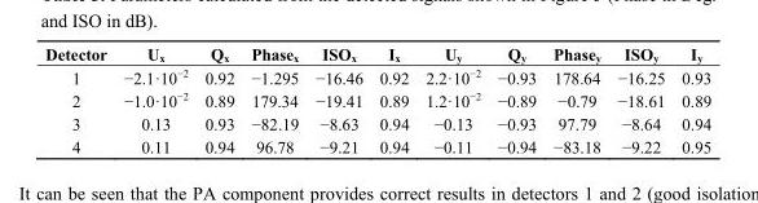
<table><thead><tr><td>Detector</td><td>U<sub>x</sub></td><td>Q<sub>x</sub></td><td>Phase<sub>x</sub></td><td>ISO<sub>x</sub></td><td>I<sub>x</sub></td><td>U<sub>y</sub></td><td>Q<sub>y</sub></td><td>Phase<sub>y</sub></td><td>ISO<sub>y</sub></td><td>I<sub>y</sub></td></tr></thead><tbody><tr><td>1</td><td>−2.1·10<sup>−2</sup></td><td>0.92</td><td>−1.295</td><td>−16.46</td><td>0.92</td><td>2.2·10<sup>−2</sup></td><td>−0.93</td><td>178.64</td><td>−16.25</td><td>0.93</td></tr><tr><td>2</td><td>−1.0·10<sup>−2</sup></td><td>0.89</td><td>179.34</td><td>−19.41</td><td>0.89</td><td>1.2·10<sup>−2</sup></td><td>−0.89</td><td>−0.79</td><td>−18.61</td><td>0.89</td></tr><tr><td>3</td><td>0.13</td><td>0.93</td><td>−82.19</td><td>−8.63</td><td>0.94</td><td>−0.13</td><td>−0.93</td><td>97.79</td><td>−8.64</td><td>0.94</td></tr><tr><td>4</td><td>0.11</td><td>0.94</td><td>96.78</td><td>−9.21</td><td>0.94</td><td>−0.11</td><td>−0.94</td><td>−83.18</td><td>−9.22</td><td>0.95</td></tr></tbody></table>